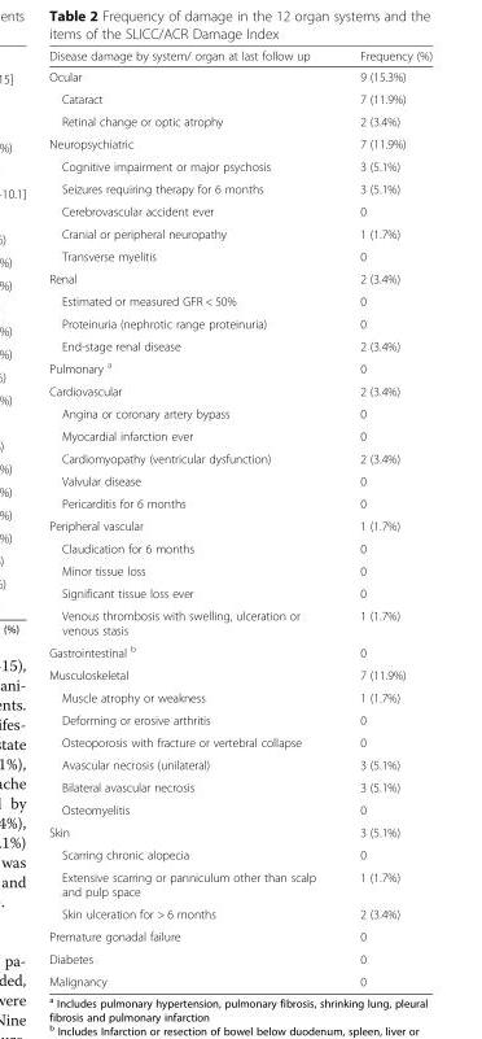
<table><thead><tr><td>Disease damage by system/ organ at last follow up</td><td>Frequency (%)</td></tr></thead><tbody><tr><td>Ocular</td><td>9 (15.3%)</td></tr><tr><td>Cataract</td><td>7 (11.9%)</td></tr><tr><td>Retinal change or optic atrophy</td><td>2 (3.4%)</td></tr><tr><td>Neuropsychiatric</td><td>7 (11.9%)</td></tr><tr><td>Cognitive impairment or major psychosis</td><td>3 (5.1%)</td></tr><tr><td>Seizures requiring therapy for 6 months</td><td>3 (5.1%)</td></tr><tr><td>Cerebrovascular accident ever</td><td>0</td></tr><tr><td>Cranial or peripheral neuropathy</td><td>1 (1.7%)</td></tr><tr><td>Transverse myelitis</td><td>0</td></tr><tr><td>Renal</td><td>2 (3.4%)</td></tr><tr><td>Estimated or measured GFR &lt; 50%</td><td>0</td></tr><tr><td>Proteinuria (nephrotic range proteinuria)</td><td>0</td></tr><tr><td>End-stage renal disease</td><td>2 (3.4%)</td></tr><tr><td>Pulmonary <sup>a</sup></td><td>0</td></tr><tr><td>Cardiovascular</td><td>2 (3.4%)</td></tr><tr><td>Angina or coronary artery bypass</td><td>0</td></tr><tr><td>Myocardial infarction ever</td><td>0</td></tr><tr><td>Cardiomyopathy (ventricular dysfunction)</td><td>2 (3.4%)</td></tr><tr><td>Valvular disease</td><td>0</td></tr><tr><td>Pericarditis for 6 months</td><td>0</td></tr><tr><td>Peripheral vascular</td><td>1 (1.7%)</td></tr><tr><td>Claudication for 6 months</td><td>0</td></tr><tr><td>Minor tissue loss</td><td>0</td></tr><tr><td>Significant tissue loss ever</td><td>0</td></tr><tr><td>Venous thrombosis with swelling, ulceration or venous stasis</td><td>1 (1.7%)</td></tr><tr><td>Gastrointestinal <sup>b</sup></td><td>0</td></tr><tr><td>Musculoskeletal</td><td>7 (11.9%)</td></tr><tr><td>Muscle atrophy or weakness</td><td>1 (1.7%)</td></tr><tr><td>Deforming or erosive arthritis</td><td>0</td></tr><tr><td>Osteoporosis with fracture or vertebral collapse</td><td>0</td></tr><tr><td>Avascular necrosis (unilateral)</td><td>3 (5.1%)</td></tr><tr><td>Bilateral avascular necrosis</td><td>3 (5.1%)</td></tr><tr><td>Osteomyelitis</td><td>0</td></tr><tr><td>Skin</td><td>3 (5.1%)</td></tr><tr><td>Scarring chronic alopecia</td><td>0</td></tr><tr><td>Extensive scarring or panniculum other than scalp and pulp space</td><td>1 (1.7%)</td></tr><tr><td>Skin ulceration for &gt; 6 months</td><td>2 (3.4%)</td></tr><tr><td>Premature gonadal failure</td><td>0</td></tr><tr><td>Diabetes</td><td>0</td></tr><tr><td>Malignancy</td><td>0</td></tr></tbody></table>